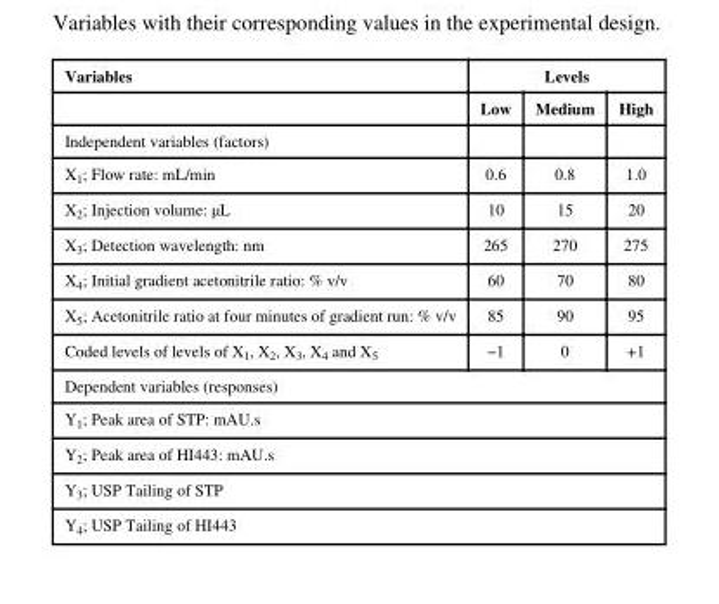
<table><thead><tr><td rowspan="2">Variables</td><td colspan="3">Levels</td></tr><tr><td>Low</td><td>Medium</td><td>High</td></tr></thead><tbody><tr><td colspan="4">Independent variables (factors)</td></tr><tr><td>X<sub>1</sub>; Flow rate: mL/min</td><td>0.6</td><td>0.8</td><td>1.0</td></tr><tr><td>X<sub>2</sub>; Injection volume: μL</td><td>10</td><td>15</td><td>20</td></tr><tr><td>X<sub>3</sub>; Detection wavelength: nm</td><td>265</td><td>270</td><td>275</td></tr><tr><td>X<sub>4</sub>; Initial gradient acetonitrile ratio: % v/v</td><td>60</td><td>70</td><td>80</td></tr><tr><td>X<sub>5</sub>; Acetonitrile ratio at four minutes of gradient run: % v/v</td><td>85</td><td>90</td><td>95</td></tr><tr><td>Coded levels of levels of X<sub>1</sub>, X<sub>2</sub>, X<sub>3</sub>, X<sub>4</sub> and X<sub>5</sub></td><td>−1</td><td>0</td><td>+1</td></tr><tr><td colspan="4">Dependent variables (responses)</td></tr><tr><td colspan="4">Y<sub>1</sub>; Peak area of STP: mAU.s</td></tr><tr><td colspan="4">Y<sub>2</sub>; Peak area of HI443: mAU.s</td></tr><tr><td colspan="4">Y<sub>3</sub>; USP Tailing of STP</td></tr><tr><td colspan="4">Y<sub>4</sub>; USP Tailing of HI443</td></tr></tbody></table>